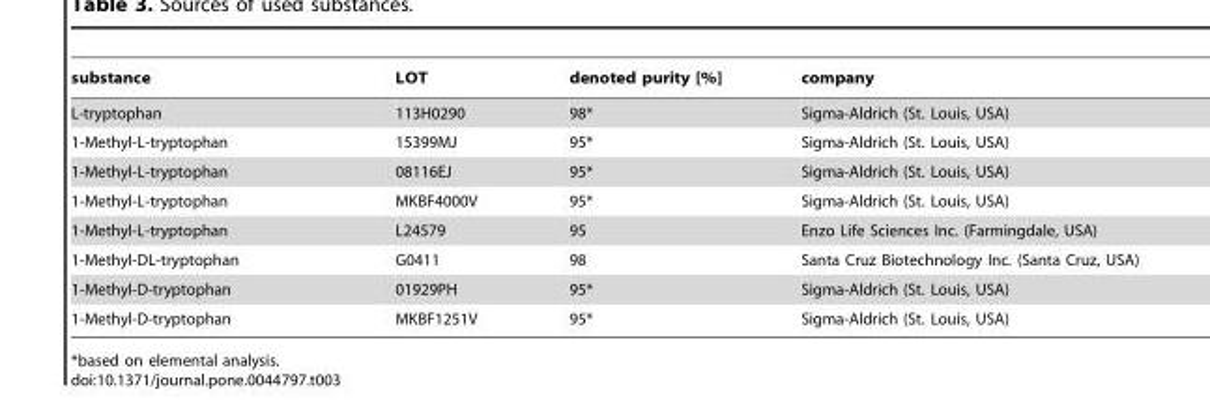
<table><thead><tr><td>substance</td><td>LOT</td><td>denoted purity [%]</td><td>company</td></tr></thead><tbody><tr><td>L-tryptophan</td><td>113H0290</td><td>98*</td><td>Sigma-Aldrich (St. Louis, USA)</td></tr><tr><td>1-Methyl-L-tryptophan</td><td>15399MJ</td><td>95*</td><td>Sigma-Aldrich (St. Louis, USA)</td></tr><tr><td>1-Methyl-L-tryptophan</td><td>08116EJ</td><td>95*</td><td>Sigma-Aldrich (St. Louis, USA)</td></tr><tr><td>1-Methyl-L-tryptophan</td><td>MKBF4000V</td><td>95*</td><td>Sigma-Aldrich (St. Louis, USA)</td></tr><tr><td>1-Methyl-L-tryptophan</td><td>L24579</td><td>95</td><td>Enzo Life Sciences Inc. (Farmingdale, USA)</td></tr><tr><td>1-Methyl-DL-tryptophan</td><td>G0411</td><td>98</td><td>Santa Cruz Biotechnology Inc. (Santa Cruz, USA)</td></tr><tr><td>1-Methyl-D-tryptophan</td><td>01929PH</td><td>95*</td><td>Sigma-Aldrich (St. Louis, USA)</td></tr><tr><td>1-Methyl-D-tryptophan</td><td>MKBF1251V</td><td>95*</td><td>Sigma-Aldrich (St. Louis, USA)</td></tr></tbody></table>